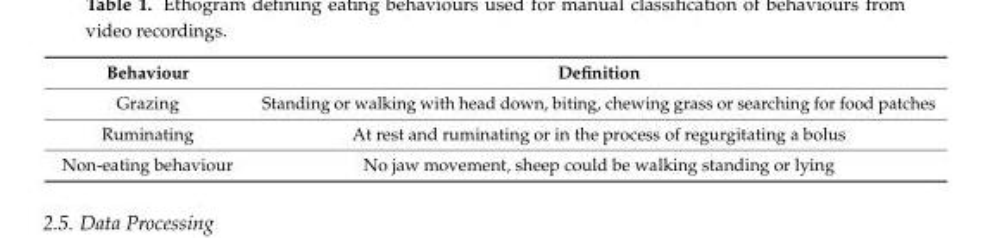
<table><thead><tr><td>Behaviour</td><td>Definition</td></tr></thead><tbody><tr><td>Grazing</td><td>Standing or walking with head down, biting, chewing grass or searching for food patches</td></tr><tr><td>Ruminating</td><td>At rest and ruminating or in the process of regurgitating a bolus</td></tr><tr><td>Non-eating behaviour</td><td>No jaw movement, sheep could be walking standing or lying</td></tr></tbody></table>